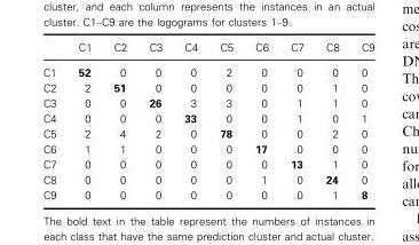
<table><thead><tr><td></td><td>C1</td><td>C2</td><td>C3</td><td>C4</td><td>C5</td><td>C6</td><td>C7</td><td>C8</td><td>C9</td></tr></thead><tbody><tr><td>C1</td><td>52</td><td>0</td><td>0</td><td>0</td><td>2</td><td>0</td><td>0</td><td>0</td><td>0</td></tr><tr><td>C2</td><td>2</td><td>51</td><td>0</td><td>0</td><td>0</td><td>0</td><td>0</td><td>1</td><td>0</td></tr><tr><td>C3</td><td>0</td><td>0</td><td>26</td><td>3</td><td>3</td><td>0</td><td>1</td><td>1</td><td>0</td></tr><tr><td>C4</td><td>0</td><td>0</td><td>0</td><td>33</td><td>0</td><td>0</td><td>1</td><td>0</td><td>1</td></tr><tr><td>C5</td><td>2</td><td>4</td><td>2</td><td>0</td><td>78</td><td>0</td><td>0</td><td>2</td><td>0</td></tr><tr><td>C6</td><td>1</td><td>1</td><td>0</td><td>0</td><td>0</td><td>17</td><td>0</td><td>0</td><td>0</td></tr><tr><td>C7</td><td>0</td><td>0</td><td>0</td><td>0</td><td>0</td><td>0</td><td>13</td><td>1</td><td>0</td></tr><tr><td>C8</td><td>0</td><td>0</td><td>0</td><td>0</td><td>0</td><td>1</td><td>0</td><td>24</td><td>0</td></tr><tr><td>C9</td><td>0</td><td>0</td><td>0</td><td>0</td><td>0</td><td>0</td><td>0</td><td>1</td><td>8</td></tr></tbody></table>